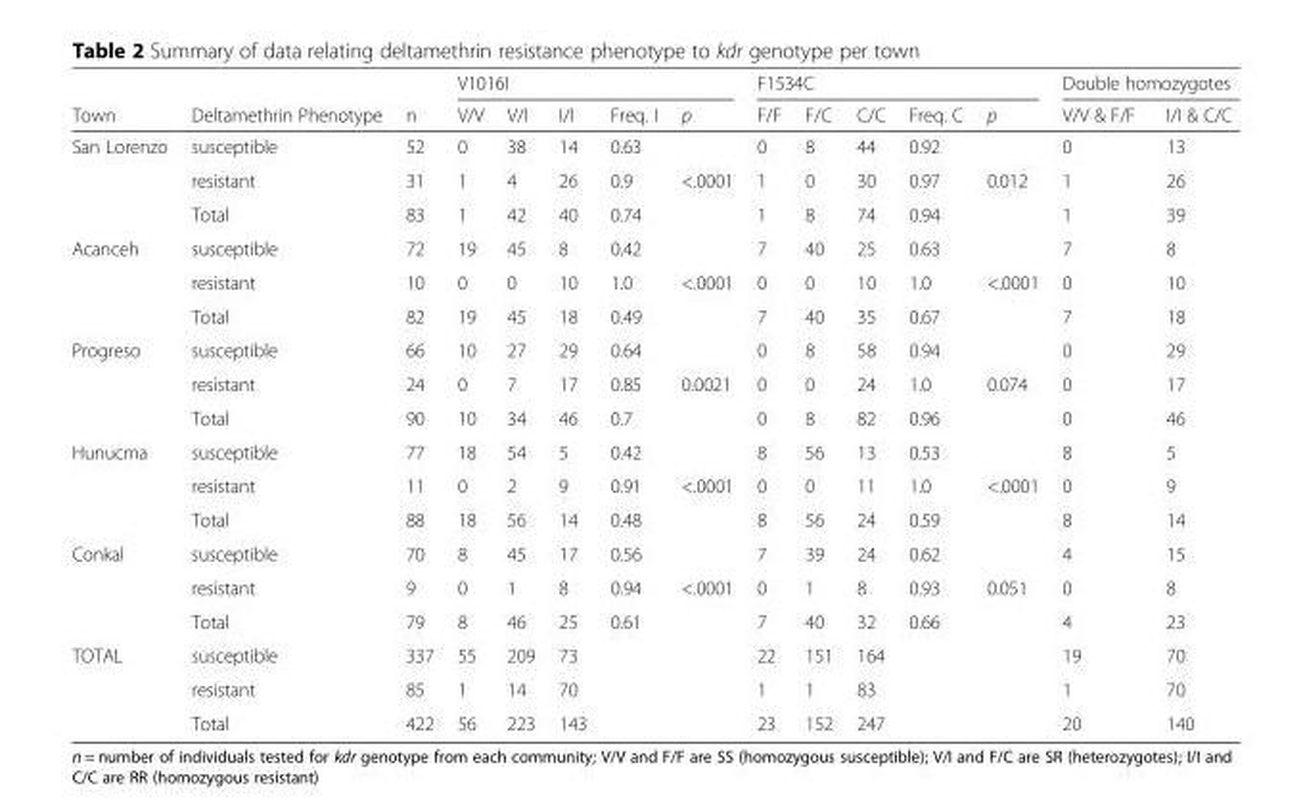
<table><thead><tr><td rowspan="2">Town</td><td rowspan="2">Deltamethrin Phenotype</td><td rowspan="2">n</td><td colspan="5">V1016I</td><td colspan="5">F1534C</td><td colspan="2">Double homozygotes</td></tr><tr><td>V/V</td><td>V/I</td><td>I/I</td><td>Freq. I</td><td>p</td><td>F/F</td><td>F/C</td><td>C/C</td><td>Freq. C</td><td>p</td><td>V/V &amp; F/F</td><td>I/I &amp; C/C</td></tr></thead><tbody><tr><td rowspan="3">San Lorenzo</td><td>susceptible</td><td>52</td><td>0</td><td>38</td><td>14</td><td>0.63</td><td></td><td>0</td><td>8</td><td>44</td><td>0.92</td><td></td><td>0</td><td>13</td></tr><tr><td>resistant</td><td>31</td><td>1</td><td>4</td><td>26</td><td>0.9</td><td>&lt;.0001</td><td>1</td><td>0</td><td>30</td><td>0.97</td><td>0.012</td><td>1</td><td>26</td></tr><tr><td>Total</td><td>83</td><td>1</td><td>42</td><td>40</td><td>0.74</td><td></td><td>1</td><td>8</td><td>74</td><td>0.94</td><td></td><td>1</td><td>39</td></tr><tr><td rowspan="3">Acanceh</td><td>susceptible</td><td>72</td><td>19</td><td>45</td><td>8</td><td>0.42</td><td></td><td>7</td><td>40</td><td>25</td><td>0.63</td><td></td><td>7</td><td>8</td></tr><tr><td>resistant</td><td>10</td><td>0</td><td>0</td><td>10</td><td>1.0</td><td>&lt;.0001</td><td>0</td><td>0</td><td>10</td><td>1.0</td><td>&lt;.0001</td><td>0</td><td>10</td></tr><tr><td>Total</td><td>82</td><td>19</td><td>45</td><td>18</td><td>0.49</td><td></td><td>7</td><td>40</td><td>35</td><td>0.67</td><td></td><td>7</td><td>18</td></tr><tr><td rowspan="3">Progreso</td><td>susceptible</td><td>66</td><td>10</td><td>27</td><td>29</td><td>0.64</td><td></td><td>0</td><td>8</td><td>58</td><td>0.94</td><td></td><td>0</td><td>29</td></tr><tr><td>resistant</td><td>24</td><td>0</td><td>7</td><td>17</td><td>0.85</td><td>0.0021</td><td>0</td><td>0</td><td>24</td><td>1.0</td><td>0.074</td><td>0</td><td>17</td></tr><tr><td>Total</td><td>90</td><td>10</td><td>34</td><td>46</td><td>0.7</td><td></td><td>0</td><td>8</td><td>82</td><td>0.96</td><td></td><td>0</td><td>46</td></tr><tr><td rowspan="3">Hunucma</td><td>susceptible</td><td>77</td><td>18</td><td>54</td><td>5</td><td>0.42</td><td></td><td>8</td><td>56</td><td>13</td><td>0.53</td><td></td><td>8</td><td>5</td></tr><tr><td>resistant</td><td>11</td><td>0</td><td>2</td><td>9</td><td>0.91</td><td>&lt;.0001</td><td>0</td><td>0</td><td>11</td><td>1.0</td><td>&lt;.0001</td><td>0</td><td>9</td></tr><tr><td>Total</td><td>88</td><td>18</td><td>56</td><td>14</td><td>0.48</td><td></td><td>8</td><td>56</td><td>24</td><td>0.59</td><td></td><td>8</td><td>14</td></tr><tr><td rowspan="3">Conkal</td><td>susceptible</td><td>70</td><td>8</td><td>45</td><td>17</td><td>0.56</td><td></td><td>7</td><td>39</td><td>24</td><td>0.62</td><td></td><td>4</td><td>15</td></tr><tr><td>resistant</td><td>9</td><td>0</td><td>1</td><td>8</td><td>0.94</td><td>&lt;.0001</td><td>0</td><td>1</td><td>8</td><td>0.93</td><td>0.051</td><td>0</td><td>8</td></tr><tr><td>Total</td><td>79</td><td>8</td><td>46</td><td>25</td><td>0.61</td><td></td><td>7</td><td>40</td><td>32</td><td>0.66</td><td></td><td>4</td><td>23</td></tr><tr><td rowspan="3">TOTAL</td><td>susceptible</td><td>337</td><td>55</td><td>209</td><td>73</td><td></td><td></td><td>22</td><td>151</td><td>164</td><td></td><td></td><td>19</td><td>70</td></tr><tr><td>resistant</td><td>85</td><td>1</td><td>14</td><td>70</td><td></td><td></td><td>1</td><td>1</td><td>83</td><td></td><td></td><td>1</td><td>70</td></tr><tr><td>Total</td><td>422</td><td>56</td><td>223</td><td>143</td><td></td><td></td><td>23</td><td>152</td><td>247</td><td></td><td></td><td>20</td><td>140</td></tr></tbody></table>